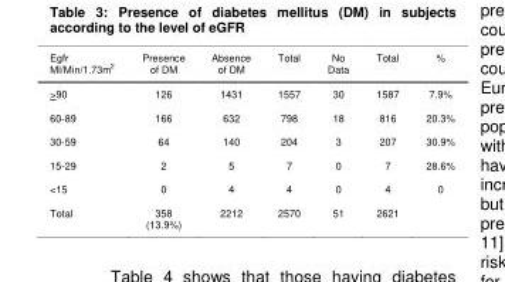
<table><thead><tr><td>Egfr Ml/Min/1.73m<sup>2</sup></td><td>Presence of DM</td><td>Absence of DM</td><td>Total</td><td>No Data</td><td>Total</td><td>%</td></tr></thead><tbody><tr><td>&gt;90</td><td>126</td><td>1431</td><td>1557</td><td>30</td><td>1587</td><td>7.9%</td></tr><tr><td>60-89</td><td>166</td><td>632</td><td>798</td><td>18</td><td>816</td><td>20.3%</td></tr><tr><td>30-59</td><td>64</td><td>140</td><td>204</td><td>3</td><td>207</td><td>30.9%</td></tr><tr><td>15-29</td><td>2</td><td>5</td><td>7</td><td>0</td><td>7</td><td>28.6%</td></tr><tr><td>&lt;15</td><td>0</td><td>4</td><td>4</td><td>0</td><td>4</td><td>0</td></tr><tr><td>Total</td><td>358 (13.9%)</td><td>2212</td><td>2570</td><td>51</td><td>2621</td><td></td></tr></tbody></table>